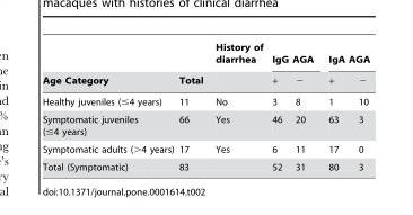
<table><thead><tr><td rowspan="2">Age Category</td><td rowspan="2">Total</td><td rowspan="2">History of diarrhea</td><td colspan="2">IgG AGA</td><td colspan="2">IgA AGA</td></tr><tr><td>+</td><td>−</td><td>+</td><td>−</td></tr></thead><tbody><tr><td>Healthy juveniles (≤4 years)</td><td>11</td><td>No</td><td>3</td><td>8</td><td>1</td><td>10</td></tr><tr><td>Symptomatic juveniles (≤4 years)</td><td>66</td><td>Yes</td><td>46</td><td>20</td><td>63</td><td>3</td></tr><tr><td>Symptomatic adults (&gt;4 years)</td><td>17</td><td>Yes</td><td>6</td><td>11</td><td>17</td><td>0</td></tr><tr><td>Total (Symptomatic)</td><td>83</td><td></td><td>52</td><td>31</td><td>80</td><td>3</td></tr></tbody></table>